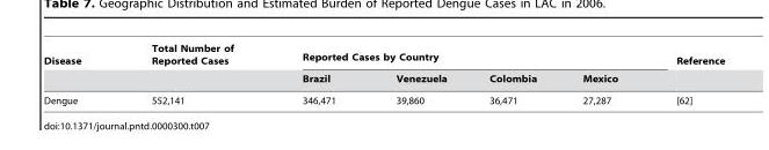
<table><thead><tr><td rowspan="2">Disease</td><td rowspan="2">Total Number of Reported Cases</td><td colspan="4">Reported Cases by Country</td><td rowspan="2">Reference</td></tr><tr><td>Brazil</td><td>Venezuela</td><td>Colombia</td><td>Mexico</td></tr></thead><tbody><tr><td>Dengue</td><td>552,141</td><td>346,471</td><td>39,860</td><td>36,471</td><td>27,287</td><td>[62]</td></tr></tbody></table>